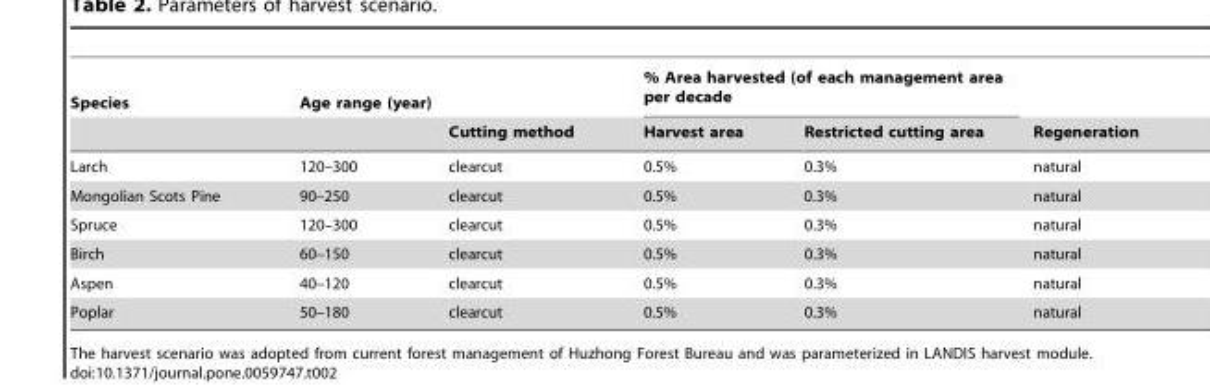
<table><thead><tr><td rowspan="2">Species</td><td rowspan="2">Age range (year)</td><td rowspan="2">Cutting method</td><td colspan="2">% Area harvested (of each management area per decade</td><td rowspan="2">Regeneration</td></tr><tr><td>Harvest area</td><td>Restricted cutting area</td></tr></thead><tbody><tr><td>Larch</td><td>120–300</td><td>clearcut</td><td>0.5%</td><td>0.3%</td><td>natural</td></tr><tr><td>Mongolian Scots Pine</td><td>90–250</td><td>clearcut</td><td>0.5%</td><td>0.3%</td><td>natural</td></tr><tr><td>Spruce</td><td>120–300</td><td>clearcut</td><td>0.5%</td><td>0.3%</td><td>natural</td></tr><tr><td>Birch</td><td>60–150</td><td>clearcut</td><td>0.5%</td><td>0.3%</td><td>natural</td></tr><tr><td>Aspen</td><td>40–120</td><td>clearcut</td><td>0.5%</td><td>0.3%</td><td>natural</td></tr><tr><td>Poplar</td><td>50–180</td><td>clearcut</td><td>0.5%</td><td>0.3%</td><td>natural</td></tr></tbody></table>